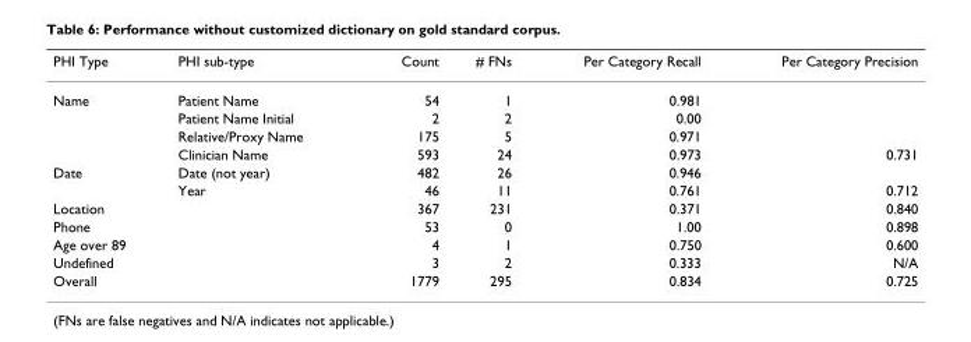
<table><thead><tr><td>PHI Type</td><td>PHI sub-type</td><td>Count</td><td># FNs</td><td>Per Category Recall</td><td>Per Category Precision</td></tr></thead><tbody><tr><td rowspan="4">Name</td><td>Patient Name</td><td>54</td><td>1</td><td>0.981</td><td></td></tr><tr><td>Patient Name Initial</td><td>2</td><td>2</td><td>0.00</td><td></td></tr><tr><td>Relative/Proxy Name</td><td>175</td><td>5</td><td>0.971</td><td></td></tr><tr><td>Clinician Name</td><td>593</td><td>24</td><td>0.973</td><td>0.731</td></tr><tr><td rowspan="2">Date</td><td>Date (not year)</td><td>482</td><td>26</td><td>0.946</td><td></td></tr><tr><td>Year</td><td>46</td><td>11</td><td>0.761</td><td>0.712</td></tr><tr><td>Location</td><td></td><td>367</td><td>231</td><td>0.371</td><td>0.840</td></tr><tr><td>Phone</td><td></td><td>53</td><td>0</td><td>1.00</td><td>0.898</td></tr><tr><td>Age over 89</td><td></td><td>4</td><td>1</td><td>0.750</td><td>0.600</td></tr><tr><td>Undefined</td><td></td><td>3</td><td>2</td><td>0.333</td><td>N/A</td></tr><tr><td>Overall</td><td></td><td>1779</td><td>295</td><td>0.834</td><td>0.725</td></tr></tbody></table>